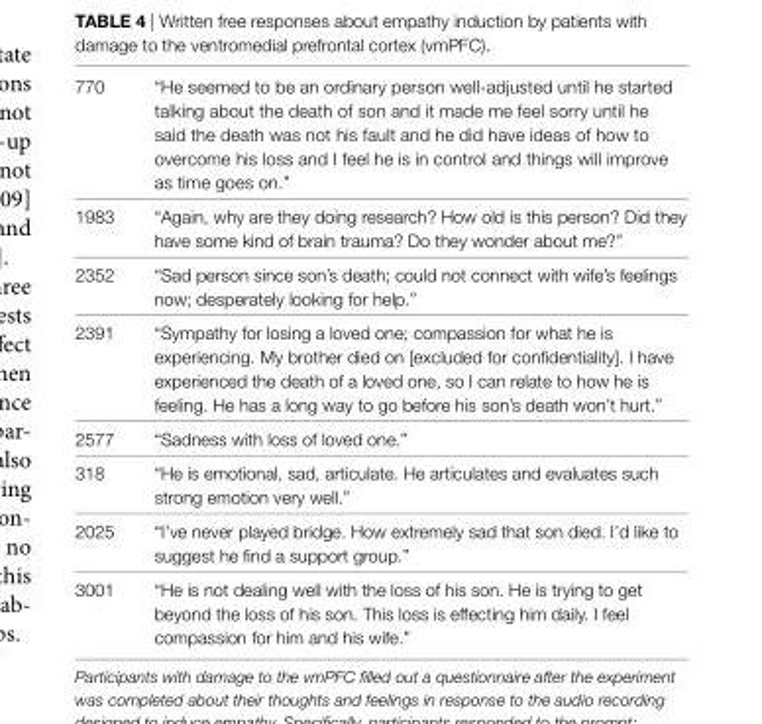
<table><tbody><tr><td>770</td><td>“He seemed to be an ordinary person well-adjusted until he started talking about the death of son and it made me feel sorry until he said the death was not his fault and he did have ideas of how to overcome his loss and I feel he is in control and things will improve as time goes on.”</td></tr><tr><td>1983</td><td>“Again, why are they doing research? How old is this person? Did they have some kind of brain trauma? Do they wonder about me?”</td></tr><tr><td>2352</td><td>“Sad person since son’s death; could not connect with wife’s feelings now; desperately looking for help.”</td></tr><tr><td>2391</td><td>“Sympathy for losing a loved one; compassion for what he is experiencing. My brother died on [excluded for confidentiality]. I have experienced the death of a loved one, so I can relate to how he is feeling. He has a long way to go before his son’s death won’t hurt.”</td></tr><tr><td>2577</td><td>“Sadness with loss of loved one.”</td></tr><tr><td>318</td><td>“He is emotional, sad, articulate. He articulates and evaluates such strong emotion very well.”</td></tr><tr><td>2025</td><td>“I’ve never played bridge. How extremely sad that son died. I’d like to suggest he find a support group.”</td></tr><tr><td>3001</td><td>“He is not dealing well with the loss of his son. He is trying to get beyond the loss of his son. This loss is effecting him daily. I feel compassion for him and his wife.”</td></tr></tbody></table>